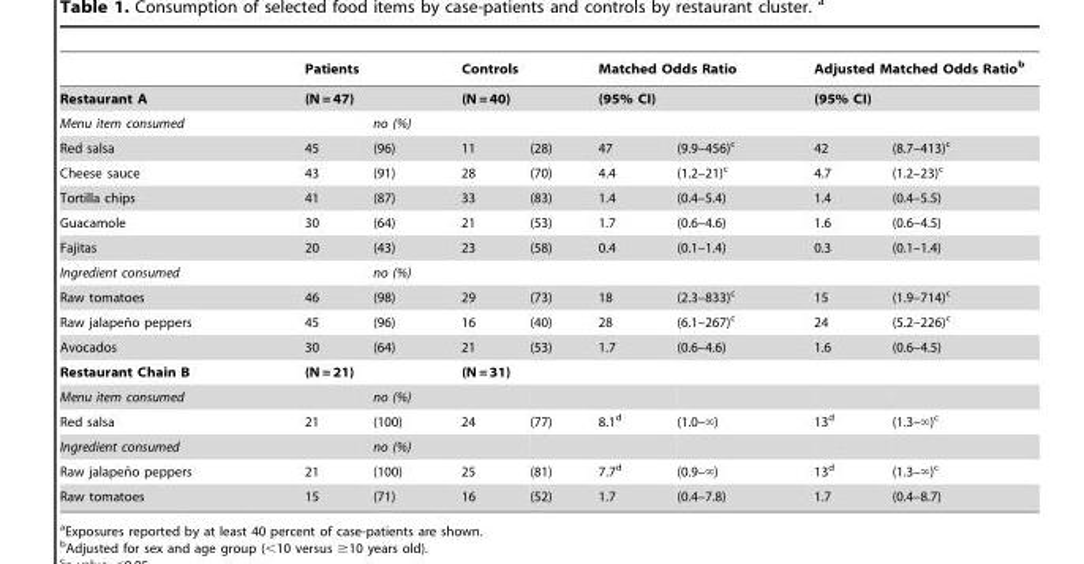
<table><thead><tr><td rowspan="4">Restaurant A Menu item consumed Red salsa</td><td rowspan="2" colspan="2">Patients (N = 47)</td><td rowspan="2" colspan="2">Controls (N = 40)</td><td rowspan="2" colspan="2">Matched Odds Ratio (95% CI)</td><td rowspan="2" colspan="2">Adjusted Matched Odds Ratio<sup>b</sup> (95% CI)</td></tr><tr></tr><tr><td rowspan="2">45</td><td colspan="2">no (%)</td><td rowspan="2">(28)</td><td rowspan="2">47</td><td rowspan="2">(9.9–456)<sup>c</sup></td><td rowspan="2">42</td><td rowspan="2">(8.7–413)<sup>c</sup></td></tr><tr><td>(96)</td><td>11</td></tr></thead><tbody><tr><td>Cheese sauce</td><td>43</td><td>(91)</td><td>28</td><td>(70)</td><td>4.4</td><td>(1.2–21)<sup>c</sup></td><td>4.7</td><td>(1.2–23)<sup>c</sup></td></tr><tr><td>Tortilla chips</td><td>41</td><td>(87)</td><td>33</td><td>(83)</td><td>1.4</td><td>(0.4–5.4)</td><td>1.4</td><td>(0.4–5.5)</td></tr><tr><td>Guacamole</td><td>30</td><td>(64)</td><td>21</td><td>(53)</td><td>1.7</td><td>(0.6–4.6)</td><td>1.6</td><td>(0.6–4.5)</td></tr><tr><td>Fajitas</td><td>20</td><td>(43)</td><td>23</td><td>(58)</td><td>0.4</td><td>(0.1–1.4)</td><td>0.3</td><td>(0.1–1.4)</td></tr><tr><td>Ingredient consumed</td><td></td><td colspan="2">no (%)</td><td></td><td></td><td></td><td></td><td></td></tr><tr><td>Raw tomatoes</td><td>46</td><td>(98)</td><td>29</td><td>(73)</td><td>18</td><td>(2.3–833)<sup>c</sup></td><td>15</td><td>(1.9–714)<sup>c</sup></td></tr><tr><td>Raw jalapen˜o peppers</td><td>45</td><td>(96)</td><td>16</td><td>(40)</td><td>28</td><td>(6.1–267)<sup>c</sup></td><td>24</td><td>(5.2–226)<sup>c</sup></td></tr><tr><td>Avocados</td><td>30</td><td>(64)</td><td>21</td><td>(53)</td><td>1.7</td><td>(0.6–4.6)</td><td>1.6</td><td>(0.6–4.5)</td></tr><tr><td>Restaurant Chain B</td><td colspan="2">(N = 21)</td><td colspan="2">(N = 31)</td><td></td><td></td><td></td><td></td></tr><tr><td>Menu item consumed</td><td></td><td colspan="2">no (%)</td><td></td><td></td><td></td><td></td><td></td></tr><tr><td>Red salsa</td><td>21</td><td>(100)</td><td>24</td><td>(77)</td><td>8.1<sup>d</sup></td><td>(1.0–‘)</td><td>13<sup>d</sup></td><td>(1.3–‘)c</td></tr><tr><td>Ingredient consumed</td><td></td><td colspan="2">no (%)</td><td></td><td></td><td></td><td></td><td></td></tr><tr><td>Raw jalapen˜o peppers</td><td>21</td><td>(100)</td><td>25</td><td>(81)</td><td>7.7<sup>d</sup></td><td>(0.9–‘)</td><td>13<sup>d</sup></td><td>(1.3–‘)c</td></tr><tr><td>Raw tomatoes</td><td>15</td><td>(71)</td><td>16</td><td>(52)</td><td>1.7</td><td>(0.4–7.8)</td><td>1.7</td><td>(0.4–8.7)</td></tr></tbody></table>